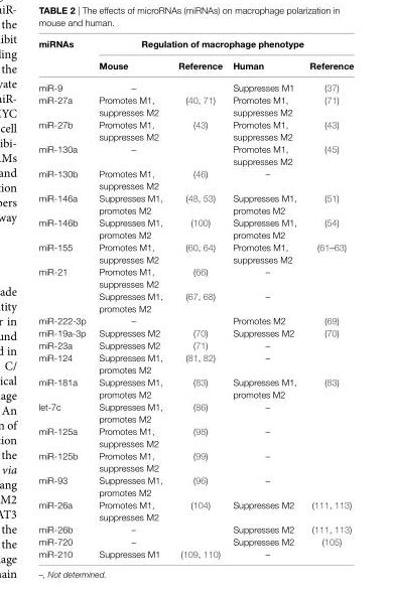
<table><thead><tr><td rowspan="2">miRNAs</td><td colspan="4">Regulation of macrophage phenotype</td></tr><tr><td>Mouse</td><td>Reference</td><td>Human</td><td>Reference</td></tr></thead><tbody><tr><td>miR-9</td><td>–</td><td></td><td>Suppresses M1</td><td>(37)</td></tr><tr><td>miR-27a</td><td>Promotes M1, suppresses M2</td><td>(40, 71)</td><td>Promotes M1, suppresses M2</td><td>(71)</td></tr><tr><td>miR-27b</td><td>Promotes M1, suppresses M2</td><td>(43)</td><td>Promotes M1, suppresses M2</td><td>(43)</td></tr><tr><td>miR-130a</td><td>–</td><td></td><td>Promotes M1, suppresses M2</td><td>(45)</td></tr><tr><td>miR-130b</td><td>Promotes M1, suppresses M2</td><td>(46)</td><td>–</td><td></td></tr><tr><td>miR-146a</td><td>Suppresses M1, promotes M2</td><td>(48, 53)</td><td>Suppresses M1, promotes M2</td><td>(51)</td></tr><tr><td>miR-146b</td><td>Suppresses M1, promotes M2</td><td>(100)</td><td>Suppresses M1, promotes M2</td><td>(54)</td></tr><tr><td>miR-155</td><td>Promotes M1, suppresses M2</td><td>(60, 64)</td><td>Promotes M1, suppresses M2</td><td>(61–63)</td></tr><tr><td rowspan="2">miR-21</td><td>Promotes M1, suppresses M2</td><td>(66)</td><td>–</td><td></td></tr><tr><td>Suppresses M1, promotes M2</td><td>(67, 68)</td><td>–</td><td></td></tr><tr><td>miR-222-3p</td><td>–</td><td></td><td>Promotes M2</td><td>(69)</td></tr><tr><td>miR-19a-3p</td><td>Suppresses M2</td><td>(70)</td><td>Suppresses M2</td><td>(70)</td></tr><tr><td>miR-23a</td><td>Suppresses M2</td><td>(71)</td><td>–</td><td></td></tr><tr><td>miR-124</td><td>Suppresses M1, promotes M2</td><td>(81, 82)</td><td>–</td><td></td></tr><tr><td>miR-181a</td><td>Suppresses M1, promotes M2</td><td>(83)</td><td>Suppresses M1, promotes M2</td><td>(83)</td></tr><tr><td>let-7c</td><td>Suppresses M1, promotes M2</td><td>(86)</td><td>–</td><td></td></tr><tr><td>miR-125a</td><td>Promotes M1, suppresses M2</td><td>(98)</td><td>–</td><td></td></tr><tr><td>miR-125b</td><td>Promotes M1, suppresses M2</td><td>(99)</td><td>–</td><td></td></tr><tr><td>miR-93</td><td>Suppresses M1, promotes M2</td><td>(96)</td><td>–</td><td></td></tr><tr><td>miR-26a</td><td>Promotes M1, suppresses M2</td><td>(104)</td><td>Suppresses M2</td><td>(111, 113)</td></tr><tr><td>miR-26b</td><td>–</td><td></td><td>Suppresses M2</td><td>(111, 113)</td></tr><tr><td>miR-720</td><td>–</td><td></td><td>Suppresses M2</td><td>(105)</td></tr><tr><td>miR-210</td><td>Suppresses M1</td><td>(109, 110)</td><td>–</td><td></td></tr></tbody></table>